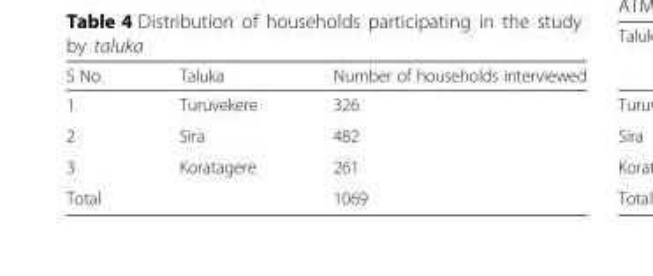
<table><thead><tr><td>S No.</td><td>Taluka</td><td>Number of households interviewed</td></tr></thead><tbody><tr><td>1</td><td>Turuvekere</td><td>326</td></tr><tr><td>2</td><td>Sira</td><td>482</td></tr><tr><td>3</td><td>Koratagere</td><td>261</td></tr><tr><td colspan="2">Total</td><td>1069</td></tr></tbody></table>